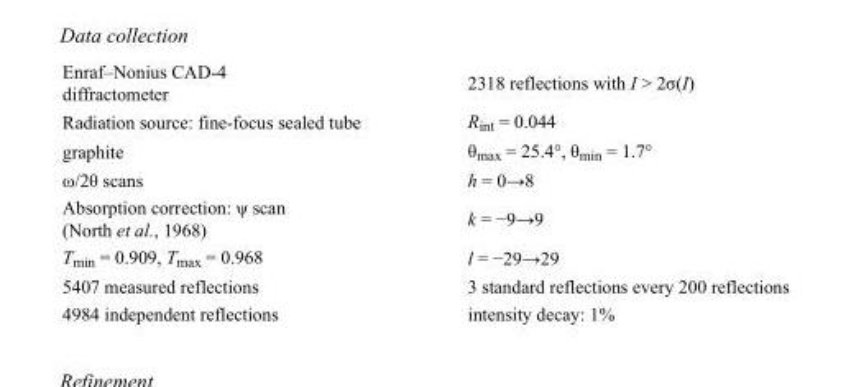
<table><tbody><tr><td>Enraf–Nonius CAD-4 diffractometer</td><td>2318 reflections with I &gt; 2σ(I)</td></tr><tr><td>Radiation source: fine-focus sealed tube</td><td>R<sub>int</sub> = 0.044</td></tr><tr><td>graphite</td><td>θ<sub>max</sub> = 25.4°, θ<sub>min</sub> = 1.7°</td></tr><tr><td>ω/2θ scans</td><td>h = 0→8</td></tr><tr><td>Absorption correction: ψ scan (North et al., 1968)</td><td>k = −9→9</td></tr><tr><td>T<sub>min</sub> = 0.909, T<sub>max</sub> = 0.968</td><td>l = −29→29</td></tr><tr><td>5407 measured reflections</td><td>3 standard reflections every 200 reflections</td></tr><tr><td>4984 independent reflections</td><td>intensity decay: 1%</td></tr></tbody></table>